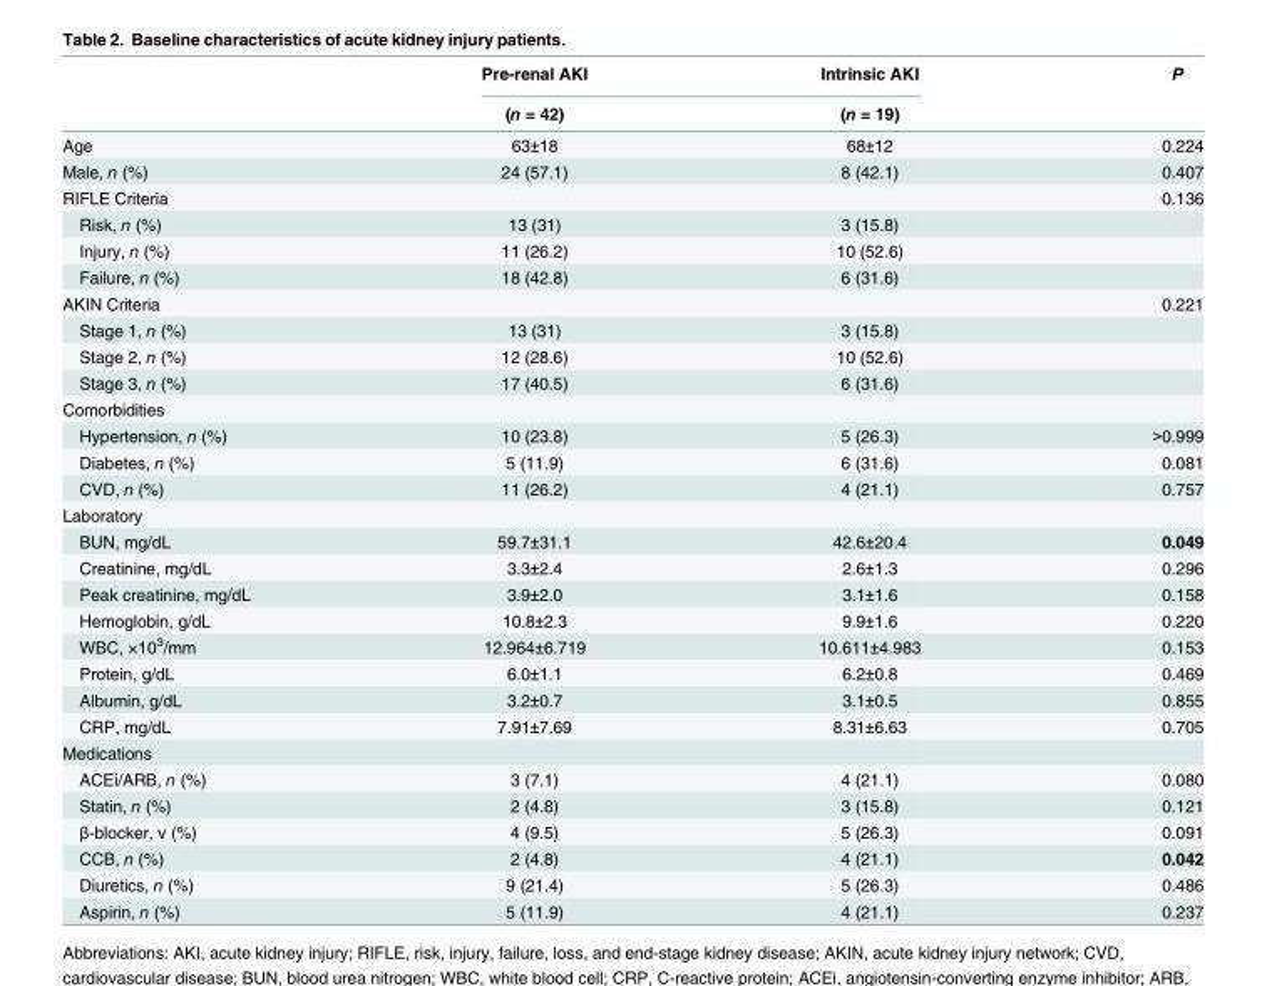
<table><thead><tr><td rowspan="2"></td><td rowspan="2">Pre-renal AKI (n = 42)</td><td rowspan="2">Intrinsic AKI (n = 19)</td><td rowspan="2">P</td></tr><tr></tr></thead><tbody><tr><td>Age</td><td>63±18</td><td>68±12</td><td>0.224</td></tr><tr><td>Male, n (%)</td><td>24 (57.1)</td><td>8 (42.1)</td><td>0.407</td></tr><tr><td>RIFLE Criteria</td><td></td><td></td><td>0.136</td></tr><tr><td>Risk, n (%)</td><td>13 (31)</td><td>3 (15.8)</td><td></td></tr><tr><td>Injury, n (%)</td><td>11 (26.2)</td><td>10 (52.6)</td><td></td></tr><tr><td>Failure, n (%)</td><td>18 (42.8)</td><td>6 (31.6)</td><td></td></tr><tr><td>AKIN Criteria</td><td></td><td></td><td>0.221</td></tr><tr><td>Stage 1, n (%)</td><td>13 (31)</td><td>3 (15.8)</td><td></td></tr><tr><td>Stage 2, n (%)</td><td>12 (28.6)</td><td>10 (52.6)</td><td></td></tr><tr><td>Stage 3, n (%)</td><td>17 (40.5)</td><td>6 (31.6)</td><td></td></tr><tr><td colspan="4">Comorbidities</td></tr><tr><td>Hypertension, n (%)</td><td>10 (23.8)</td><td>5 (26.3)</td><td>&gt;0.999</td></tr><tr><td>Diabetes, n (%)</td><td>5 (11.9)</td><td>6 (31.6)</td><td>0.081</td></tr><tr><td>CVD, n (%)</td><td>11 (26.2)</td><td>4 (21.1)</td><td>0.757</td></tr><tr><td colspan="4">Laboratory</td></tr><tr><td>BUN, mg/dL</td><td>59.7±31.1</td><td>42.6±20.4</td><td>0.049</td></tr><tr><td>Creatinine, mg/dL</td><td>3.3±2.4</td><td>2.6±1.3</td><td>0.296</td></tr><tr><td>Peak creatinine, mg/dL</td><td>3.9±2.0</td><td>3.1±1.6</td><td>0.158</td></tr><tr><td>Hemoglobin, g/dL</td><td>10.8±2.3</td><td>9.9±1.6</td><td>0.220</td></tr><tr><td>WBC, ×10<sup>3</sup>/mm</td><td>12.964±6.719</td><td>10.611±4.983</td><td>0.153</td></tr><tr><td>Protein, g/dL</td><td>6.0±1.1</td><td>6.2±0.8</td><td>0.469</td></tr><tr><td>Albumin, g/dL</td><td>3.2±0.7</td><td>3.1±0.5</td><td>0.855</td></tr><tr><td>CRP, mg/dL</td><td>7.91±7.69</td><td>8.31±6.63</td><td>0.705</td></tr><tr><td colspan="4">Medications</td></tr><tr><td>ACEi/ARB, n (%)</td><td>3 (7.1)</td><td>4 (21.1)</td><td>0.080</td></tr><tr><td>Statin, n (%)</td><td>2 (4.8)</td><td>3 (15.8)</td><td>0.121</td></tr><tr><td>β-blocker, v (%)</td><td>4 (9.5)</td><td>5 (26.3)</td><td>0.091</td></tr><tr><td>CCB, n (%)</td><td>2 (4.8)</td><td>4 (21.1)</td><td>0.042</td></tr><tr><td>Diuretics, n (%)</td><td>9 (21.4)</td><td>5 (26.3)</td><td>0.486</td></tr><tr><td>Aspirin, n (%)</td><td>5 (11.9)</td><td>4 (21.1)</td><td>0.237</td></tr></tbody></table>